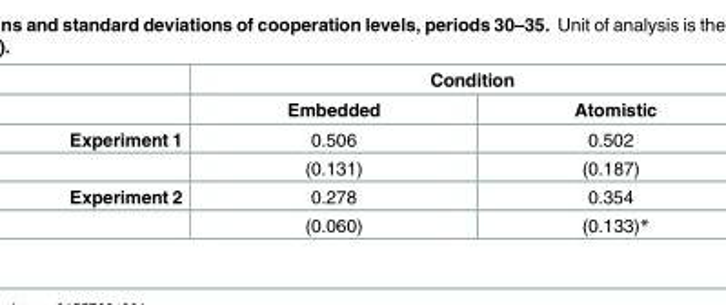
<table><thead><tr><td rowspan="2"></td><td colspan="2">Condition</td></tr><tr><td>Embedded</td><td>Atomistic</td></tr></thead><tbody><tr><td rowspan="2">Experiment 1</td><td>0.506</td><td>0.502</td></tr><tr><td>(0.131)</td><td>(0.187)</td></tr><tr><td rowspan="2">Experiment 2</td><td>0.278</td><td>0.354</td></tr><tr><td>(0.060)</td><td>(0.133)*</td></tr></tbody></table>